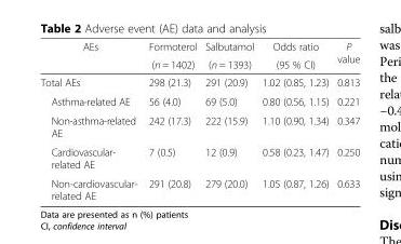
<table><thead><tr><td rowspan="2">AEs</td><td rowspan="2">Formoterol (n = 1402)</td><td rowspan="2">Salbutamol (n = 1393)</td><td rowspan="2">Odds ratio (95 % CI)</td><td rowspan="2">P value</td></tr><tr></tr></thead><tbody><tr><td>Total AEs</td><td>298 (21.3)</td><td>291 (20.9)</td><td>1.02 (0.85, 1.23)</td><td>0.813</td></tr><tr><td>Asthma-related AE</td><td>56 (4.0)</td><td>69 (5.0)</td><td>0.80 (0.56, 1.15)</td><td>0.221</td></tr><tr><td>Non-asthma-related AE</td><td>242 (17.3)</td><td>222 (15.9)</td><td>1.10 (0.90, 1.34)</td><td>0.347</td></tr><tr><td>Cardiovascular- related AE</td><td>7 (0.5)</td><td>12 (0.9)</td><td>0.58 (0.23, 1.47)</td><td>0.250</td></tr><tr><td>Non-cardiovascular- related AE</td><td>291 (20.8)</td><td>279 (20.0)</td><td>1.05 (0.87, 1.26)</td><td>0.633</td></tr></tbody></table>